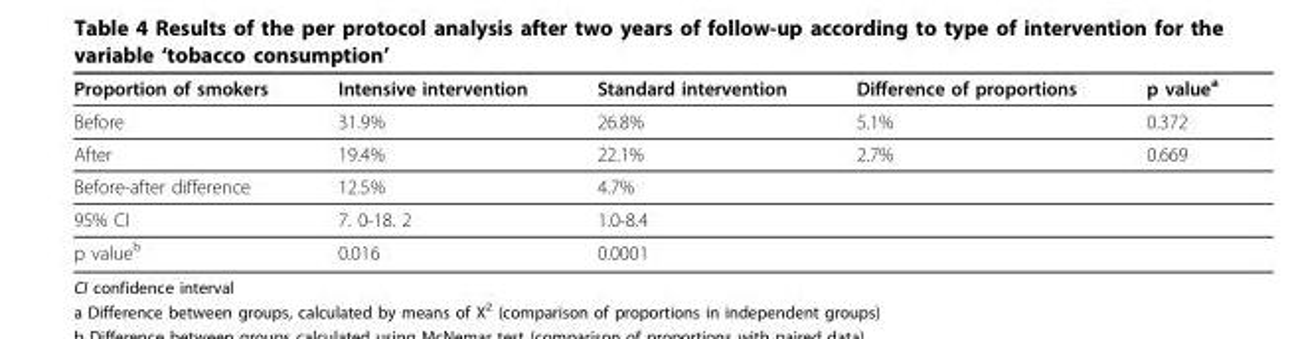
<table><thead><tr><td>Proportion of smokers</td><td>Intensive intervention</td><td>Standard intervention</td><td>Difference of proportions</td><td>p value<sup>a</sup></td></tr></thead><tbody><tr><td>Before</td><td>31.9%</td><td>26.8%</td><td>5.1%</td><td>0.372</td></tr><tr><td>After</td><td>19.4%</td><td>22.1%</td><td>2.7%</td><td>0.669</td></tr><tr><td>Before-after difference</td><td>12.5%</td><td>4.7%</td><td></td><td></td></tr><tr><td>95% CI</td><td>7. 0-18. 2</td><td>1.0-8.4</td><td></td><td></td></tr><tr><td>p value<sup>b</sup></td><td>0.016</td><td>0.0001</td><td></td><td></td></tr></tbody></table>